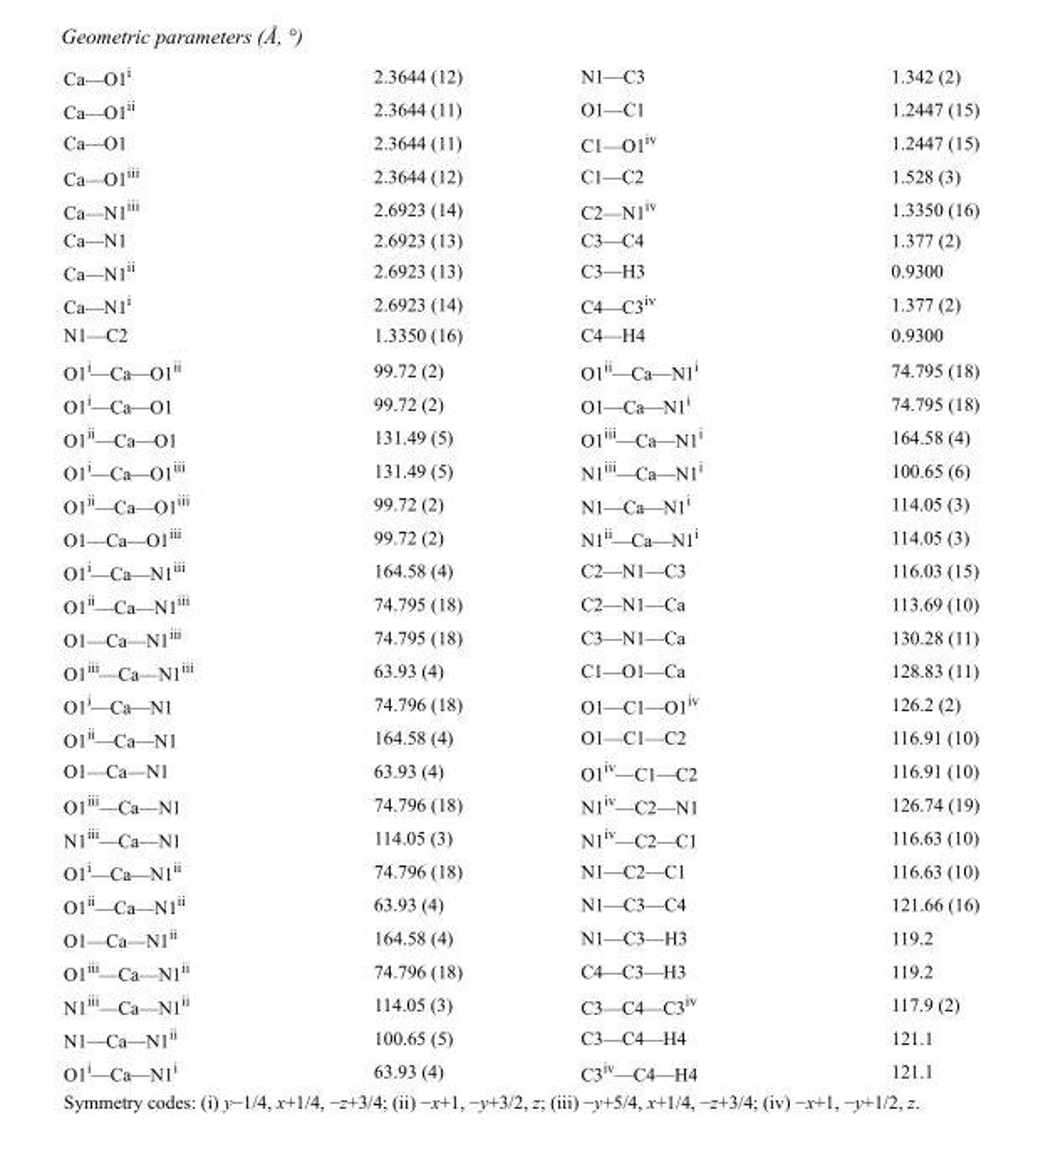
<table><tbody><tr><td>Ca—O1<sup>i</sup></td><td>2.3644 (12)</td><td>N1—C3</td><td>1.342 (2)</td></tr><tr><td>Ca—O1<sup>ii</sup></td><td>2.3644 (11)</td><td>O1—C1</td><td>1.2447 (15)</td></tr><tr><td>Ca—O1</td><td>2.3644 (11)</td><td>C1—O1<sup>iv</sup></td><td>1.2447 (15)</td></tr><tr><td>Ca—O1<sup>iii</sup></td><td>2.3644 (12)</td><td>C1—C2</td><td>1.528 (3)</td></tr><tr><td>Ca—N1<sup>iii</sup></td><td>2.6923 (14)</td><td>C2—N1<sup>iv</sup></td><td>1.3350 (16)</td></tr><tr><td>Ca—N1</td><td>2.6923 (13)</td><td>C3—C4</td><td>1.377 (2)</td></tr><tr><td>Ca—N1<sup>ii</sup></td><td>2.6923 (13)</td><td>C3—H3</td><td>0.9300</td></tr><tr><td>Ca—N1<sup>i</sup></td><td>2.6923 (14)</td><td>C4—C3<sup>iv</sup></td><td>1.377 (2)</td></tr><tr><td>N1—C2</td><td>1.3350 (16)</td><td>C4—H4</td><td>0.9300</td></tr><tr><td>O1<sup>i</sup>—Ca—O1<sup>ii</sup></td><td>99.72 (2)</td><td>O1<sup>ii</sup>—Ca—N1<sup>i</sup></td><td>74.795 (18)</td></tr><tr><td>O1<sup>i</sup>—Ca—O1</td><td>99.72 (2)</td><td>O1—Ca—N1<sup>i</sup></td><td>74.795 (18)</td></tr><tr><td>O1<sup>ii</sup>—Ca—O1</td><td>131.49 (5)</td><td>O1<sup>iii</sup>—Ca—N1<sup>i</sup></td><td>164.58 (4)</td></tr><tr><td>O1<sup>i</sup>—Ca—O1<sup>iii</sup></td><td>131.49 (5)</td><td>N1<sup>iii</sup>—Ca—N1<sup>i</sup></td><td>100.65 (6)</td></tr><tr><td>O1<sup>ii</sup>—Ca—O1<sup>iii</sup></td><td>99.72 (2)</td><td>N1—Ca—N1<sup>i</sup></td><td>114.05 (3)</td></tr><tr><td>O1—Ca—O1<sup>iii</sup></td><td>99.72 (2)</td><td>N1<sup>ii</sup>—Ca—N1<sup>i</sup></td><td>114.05 (3)</td></tr><tr><td>O1<sup>i</sup>—Ca—N1<sup>iii</sup></td><td>164.58 (4)</td><td>C2—N1—C3</td><td>116.03 (15)</td></tr><tr><td>O1<sup>ii</sup>—Ca—N1<sup>iii</sup></td><td>74.795 (18)</td><td>C2—N1—Ca</td><td>113.69 (10)</td></tr><tr><td>O1—Ca—N1<sup>iii</sup></td><td>74.795 (18)</td><td>C3—N1—Ca</td><td>130.28 (11)</td></tr><tr><td>O1<sup>iii</sup>—Ca—N1<sup>iii</sup></td><td>63.93 (4)</td><td>C1—O1—Ca</td><td>128.83 (11)</td></tr><tr><td>O1<sup>i</sup>—Ca—N1</td><td>74.796 (18)</td><td>O1—C1—O1<sup>iv</sup></td><td>126.2 (2)</td></tr><tr><td>O1<sup>ii</sup>—Ca—N1</td><td>164.58 (4)</td><td>O1—C1—C2</td><td>116.91 (10)</td></tr><tr><td>O1—Ca—N1</td><td>63.93 (4)</td><td>O1<sup>iv</sup>—C1—C2</td><td>116.91 (10)</td></tr><tr><td>O1<sup>iii</sup>—Ca—N1</td><td>74.796 (18)</td><td>N1<sup>iv</sup>—C2—N1</td><td>126.74 (19)</td></tr><tr><td>N1<sup>iii</sup>—Ca—N1</td><td>114.05 (3)</td><td>N1<sup>iv</sup>—C2—C1</td><td>116.63 (10)</td></tr><tr><td>O1<sup>i</sup>—Ca—N1<sup>ii</sup></td><td>74.796 (18)</td><td>N1—C2—C1</td><td>116.63 (10)</td></tr><tr><td>O1<sup>ii</sup>—Ca—N1<sup>ii</sup></td><td>63.93 (4)</td><td>N1—C3—C4</td><td>121.66 (16)</td></tr><tr><td>O1—Ca—N1<sup>ii</sup></td><td>164.58 (4)</td><td>N1—C3—H3</td><td>119.2</td></tr><tr><td>O1<sup>iii</sup>—Ca—N1<sup>ii</sup></td><td>74.796 (18)</td><td>C4—C3—H3</td><td>119.2</td></tr><tr><td>N1<sup>iii</sup>—Ca—N1<sup>ii</sup></td><td>114.05 (3)</td><td>C3—C4—C3<sup>iv</sup></td><td>117.9 (2)</td></tr><tr><td>N1—Ca—N1<sup>ii</sup></td><td>100.65 (5)</td><td>C3—C4—H4</td><td>121.1</td></tr><tr><td>O1<sup>i</sup>—Ca—N1<sup>i</sup></td><td>63.93 (4)</td><td>C3<sup>iv</sup>—C4—H4</td><td>121.1</td></tr></tbody></table>